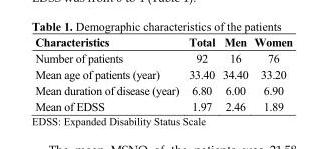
<table><thead><tr><td>Characteristics</td><td>Total</td><td>Men</td><td>Women</td></tr></thead><tbody><tr><td>Number of patients</td><td>92</td><td>16</td><td>76</td></tr><tr><td>Mean age of patients (year)</td><td>33.40</td><td>34.40</td><td>33.20</td></tr><tr><td>Mean duration of disease (year)</td><td>6.80</td><td>6.00</td><td>6.90</td></tr><tr><td>Mean of EDSS</td><td>1.97</td><td>2.46</td><td>1.89</td></tr></tbody></table>